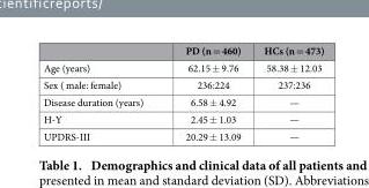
<table><thead><tr><td></td><td>PD (n = 460)</td><td>HCs (n = 473)</td></tr></thead><tbody><tr><td>Age (years)</td><td>62.15 ± 9.76</td><td>58.38 ± 12.03</td></tr><tr><td>Sex ( male: female)</td><td>236:224</td><td>237:236</td></tr><tr><td>Disease duration (years)</td><td>6.58 ± 4.92</td><td>—</td></tr><tr><td>H-Y</td><td>2.45 ± 1.03</td><td>—</td></tr><tr><td>UPDRS-III</td><td>20.29 ± 13.09</td><td>—</td></tr></tbody></table>